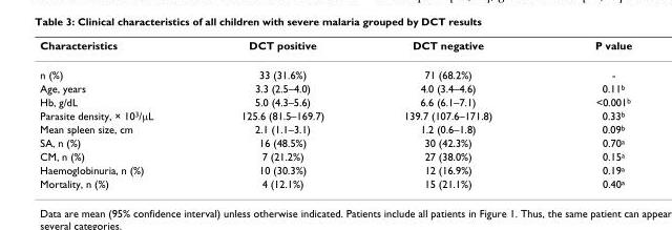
<table><thead><tr><td>Characteristics</td><td>DCT positive</td><td>DCT negative</td><td>P value</td></tr></thead><tbody><tr><td>n (%)</td><td>33 (31.6%)</td><td>71 (68.2%)</td><td>-</td></tr><tr><td>Age, years</td><td>3.3 (2.5–4.0)</td><td>4.0 (3.4–4.6)</td><td>0.11<sup>b</sup></td></tr><tr><td>Hb, g/dL</td><td>5.0 (4.3–5.6)</td><td>6.6 (6.1–7.1)</td><td>&lt;0.001<sup>b</sup></td></tr><tr><td>Parasite density, × 10<sup>3</sup>/µL</td><td>125.6 (81.5–169.7)</td><td>139.7 (107.6–171.8)</td><td>0.33<sup>b</sup></td></tr><tr><td>Mean spleen size, cm</td><td>2.1 (1.1–3.1)</td><td>1.2 (0.6–1.8)</td><td>0.09<sup>b</sup></td></tr><tr><td>SA, n (%)</td><td>16 (48.5%)</td><td>30 (42.3%)</td><td>0.70<sup>a</sup></td></tr><tr><td>CM, n (%)</td><td>7 (21.2%)</td><td>27 (38.0%)</td><td>0.15<sup>a</sup></td></tr><tr><td>Haemoglobinuria, n (%)</td><td>10 (30.3%)</td><td>12 (16.9%)</td><td>0.19<sup>a</sup></td></tr><tr><td>Mortality, n (%)</td><td>4 (12.1%)</td><td>15 (21.1%)</td><td>0.40<sup>a</sup></td></tr></tbody></table>